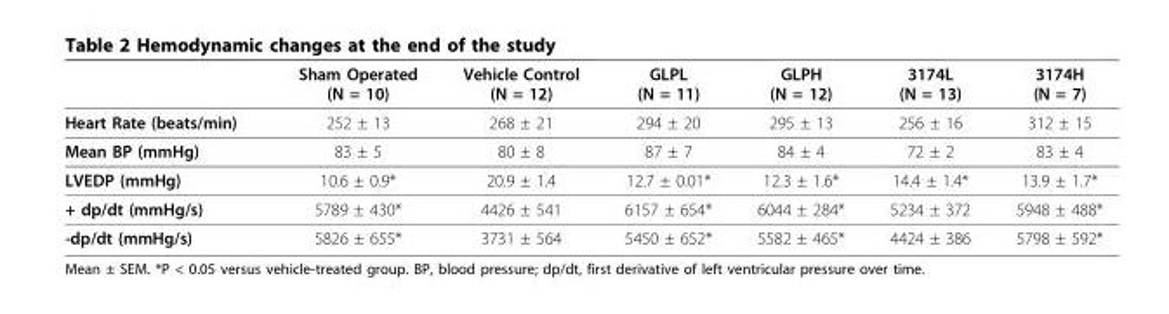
<table><thead><tr><td></td><td>Sham Operated (N = 10)</td><td>Vehicle Control (N = 12)</td><td>GLPL (N = 11)</td><td>GLPH (N = 12)</td><td>3174L (N = 13)</td><td>3174H (N = 7)</td></tr></thead><tbody><tr><td>Heart Rate (beats/min)</td><td>252 ± 13</td><td>268 ± 21</td><td>294 ± 20</td><td>295 ± 13</td><td>256 ± 16</td><td>312 ± 15</td></tr><tr><td>Mean BP (mmHg)</td><td>83 ± 5</td><td>80 ± 8</td><td>87 ± 7</td><td>84 ± 4</td><td>72 ± 2</td><td>83 ± 4</td></tr><tr><td>LVEDP (mmHg)</td><td>10.6 ± 0.9*</td><td>20.9 ± 1.4</td><td>12.7 ± 0.01*</td><td>12.3 ± 1.6*</td><td>14.4 ± 1.4*</td><td>13.9 ± 1.7*</td></tr><tr><td>+ dp/dt (mmHg/s)</td><td>5789 ± 430*</td><td>4426 ± 541</td><td>6157 ± 654*</td><td>6044 ± 284*</td><td>5234 ± 372</td><td>5948 ± 488*</td></tr><tr><td>-dp/dt (mmHg/s)</td><td>5826 ± 655*</td><td>3731 ± 564</td><td>5450 ± 652*</td><td>5582 ± 465*</td><td>4424 ± 386</td><td>5798 ± 592*</td></tr></tbody></table>